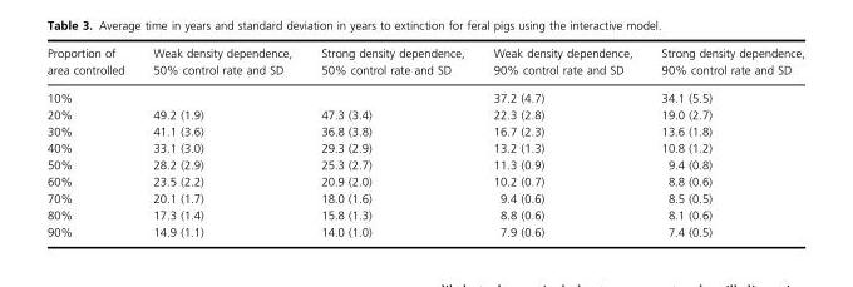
<table><thead><tr><td>Proportion of area controlled</td><td>Weak density dependence, 50% control rate and SD</td><td>Strong density dependence, 50% control rate and SD</td><td>Weak density dependence, 90% control rate and SD</td><td>Strong density dependence, 90% control rate and SD</td></tr></thead><tbody><tr><td>10%</td><td></td><td></td><td>37.2 (4.7)</td><td>34.1 (5.5)</td></tr><tr><td>20%</td><td>49.2 (1.9)</td><td>47.3 (3.4)</td><td>22.3 (2.8)</td><td>19.0 (2.7)</td></tr><tr><td>30%</td><td>41.1 (3.6)</td><td>36.8 (3.8)</td><td>16.7 (2.3)</td><td>13.6 (1.8)</td></tr><tr><td>40%</td><td>33.1 (3.0)</td><td>29.3 (2.9)</td><td>13.2 (1.3)</td><td>10.8 (1.2)</td></tr><tr><td>50%</td><td>28.2 (2.9)</td><td>25.3 (2.7)</td><td>11.3 (0.9)</td><td>9.4 (0.8)</td></tr><tr><td>60%</td><td>23.5 (2.2)</td><td>20.9 (2.0)</td><td>10.2 (0.7)</td><td>8.8 (0.6)</td></tr><tr><td>70%</td><td>20.1 (1.7)</td><td>18.0 (1.6)</td><td>9.4 (0.6)</td><td>8.5 (0.5)</td></tr><tr><td>80%</td><td>17.3 (1.4)</td><td>15.8 (1.3)</td><td>8.8 (0.6)</td><td>8.1 (0.6)</td></tr><tr><td>90%</td><td>14.9 (1.1)</td><td>14.0 (1.0)</td><td>7.9 (0.6)</td><td>7.4 (0.5)</td></tr></tbody></table>